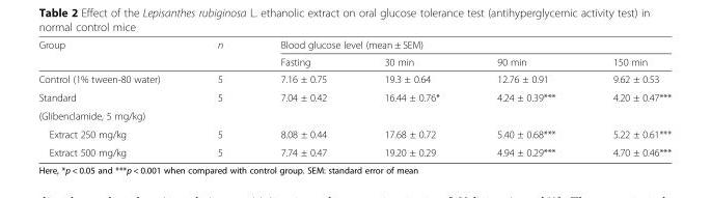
<table><thead><tr><td rowspan="2">Group</td><td rowspan="2">n</td><td colspan="4">Blood glucose level (mean ± SEM)</td></tr><tr><td>Fasting</td><td>30 min</td><td>90 min</td><td>150 min</td></tr></thead><tbody><tr><td>Control (1% tween-80 water)</td><td>5</td><td>7.16 ± 0.75</td><td>19.3 ± 0.64</td><td>12.76 ± 0.91</td><td>9.62 ± 0.53</td></tr><tr><td>Standard</td><td>5</td><td>7.04 ± 0.42</td><td>16.44 ± 0.76*</td><td>4.24 ± 0.39***</td><td>4.20 ± 0.47***</td></tr><tr><td colspan="6">(Glibenclamide, 5 mg/kg)</td></tr><tr><td>Extract 250 mg/kg</td><td>5</td><td>8.08 ± 0.44</td><td>17.68 ± 0.72</td><td>5.40 ± 0.68***</td><td>5.22 ± 0.61***</td></tr><tr><td>Extract 500 mg/kg</td><td>5</td><td>7.74 ± 0.47</td><td>19.20 ± 0.29</td><td>4.94 ± 0.29***</td><td>4.70 ± 0.46***</td></tr></tbody></table>